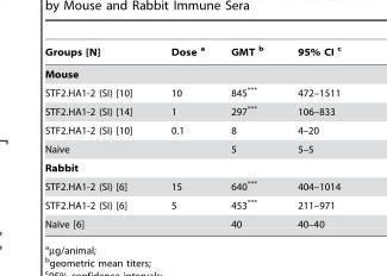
<table><thead><tr><td>Groups [N]</td><td>Dose a</td><td>GMT b</td><td>95% CI c</td></tr></thead><tbody><tr><td colspan="4">Mouse</td></tr><tr><td>STF2.HA1-2 (SI) [10]</td><td>10</td><td>845***</td><td>472–1511</td></tr><tr><td>STF2.HA1-2 (SI) [14]</td><td>1</td><td>297***</td><td>106–833</td></tr><tr><td>STF2.HA1-2 (SI) [10]</td><td>0.1</td><td>8</td><td>4–20</td></tr><tr><td>Naive</td><td></td><td>5</td><td>5–5</td></tr><tr><td colspan="4">Rabbit</td></tr><tr><td>STF2.HA1-2 (SI) [6]</td><td>15</td><td>640***</td><td>404–1014</td></tr><tr><td>STF2.HA1-2 (SI) [6]</td><td>5</td><td>453***</td><td>211–971</td></tr><tr><td>Naı¨ve [6]</td><td></td><td>40</td><td>40–40</td></tr></tbody></table>